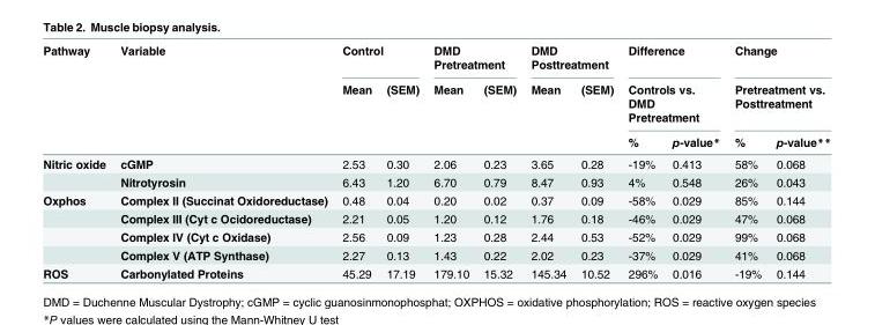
<table><thead><tr><td rowspan="3">Pathway</td><td rowspan="3">Variable</td><td colspan="2">Control</td><td colspan="2">DMD Pretreatment</td><td colspan="2">DMD Posttreatment</td><td rowspan="2" colspan="2">Difference Controls vs. DMD Pretreatment</td><td rowspan="2" colspan="2">Change Pretreatment vs. Posttreatment</td></tr><tr><td rowspan="2">Mean</td><td rowspan="2">(SEM)</td><td rowspan="2">Mean</td><td rowspan="2">(SEM)</td><td rowspan="2">Mean</td><td rowspan="2">(SEM)</td></tr><tr><td>%</td><td>p-value*</td><td>%</td><td>p-value**</td></tr></thead><tbody><tr><td rowspan="2">Nitric oxide</td><td>cGMP</td><td>2.53</td><td>0.30</td><td>2.06</td><td>0.23</td><td>3.65</td><td>0.28</td><td>-19%</td><td>0.413</td><td>58%</td><td>0.068</td></tr><tr><td>Nitrotyrosin</td><td>6.43</td><td>1.20</td><td>6.70</td><td>0.79</td><td>8.47</td><td>0.93</td><td>4%</td><td>0.548</td><td>26%</td><td>0.043</td></tr><tr><td rowspan="4">Oxphos</td><td>Complex II (Succinat Oxidoreductase)</td><td>0.48</td><td>0.04</td><td>0.20</td><td>0.02</td><td>0.37</td><td>0.09</td><td>-58%</td><td>0.029</td><td>85%</td><td>0.144</td></tr><tr><td>Complex III (Cyt c Ocidoreductase)</td><td>2.21</td><td>0.05</td><td>1.20</td><td>0.12</td><td>1.76</td><td>0.18</td><td>-46%</td><td>0.029</td><td>47%</td><td>0.068</td></tr><tr><td>Complex IV (Cyt c Oxidase)</td><td>2.56</td><td>0.09</td><td>1.23</td><td>0.28</td><td>2.44</td><td>0.53</td><td>-52%</td><td>0.029</td><td>99%</td><td>0.068</td></tr><tr><td>Complex V (ATP Synthase)</td><td>2.27</td><td>0.13</td><td>1.43</td><td>0.22</td><td>2.02</td><td>0.23</td><td>-37%</td><td>0.029</td><td>41%</td><td>0.068</td></tr><tr><td>ROS</td><td>Carbonylated Proteins</td><td>45.29</td><td>17.19</td><td>179.10</td><td>15.32</td><td>145.34</td><td>10.52</td><td>296%</td><td>0.016</td><td>-19%</td><td>0.144</td></tr></tbody></table>